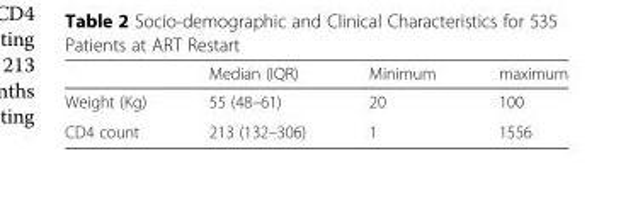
<table><thead><tr><td></td><td>Median (IQR)</td><td>Minimum</td><td>maximum</td></tr></thead><tbody><tr><td>Weight (Kg)</td><td>55 (48–61)</td><td>20</td><td>100</td></tr><tr><td>CD4 count</td><td>213 (132–306)</td><td>1</td><td>1556</td></tr></tbody></table>